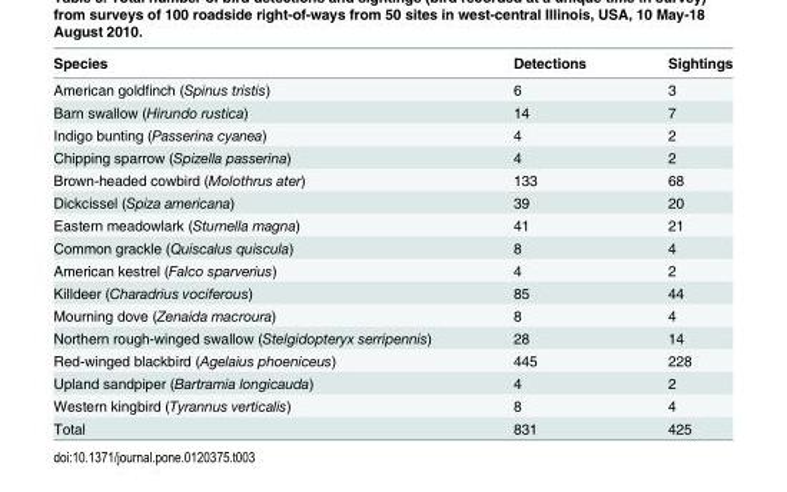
<table><thead><tr><td>Species</td><td>Detections</td><td>Sightings</td></tr></thead><tbody><tr><td>American goldfinch (Spinus tristis)</td><td>6</td><td>3</td></tr><tr><td>Barn swallow (Hirundo rustica)</td><td>14</td><td>7</td></tr><tr><td>Indigo bunting (Passerina cyanea)</td><td>4</td><td>2</td></tr><tr><td>Chipping sparrow (Spizella passerina)</td><td>4</td><td>2</td></tr><tr><td>Brown-headed cowbird (Molothrus ater)</td><td>133</td><td>68</td></tr><tr><td>Dickcissel (Spiza americana)</td><td>39</td><td>20</td></tr><tr><td>Eastern meadowlark (Sturnella magna)</td><td>41</td><td>21</td></tr><tr><td>Common grackle (Quiscalus quiscula)</td><td>8</td><td>4</td></tr><tr><td>American kestrel (Falco sparverius)</td><td>4</td><td>2</td></tr><tr><td>Killdeer (Charadrius vociferous)</td><td>85</td><td>44</td></tr><tr><td>Mourning dove (Zenaida macroura)</td><td>8</td><td>4</td></tr><tr><td>Northern rough-winged swallow (Stelgidopteryx serripennis)</td><td>28</td><td>14</td></tr><tr><td>Red-winged blackbird (Agelaius phoeniceus)</td><td>445</td><td>228</td></tr><tr><td>Upland sandpiper (Bartramia longicauda)</td><td>4</td><td>2</td></tr><tr><td>Western kingbird (Tyrannus verticalis)</td><td>8</td><td>4</td></tr><tr><td>Total</td><td>831</td><td>425</td></tr></tbody></table>